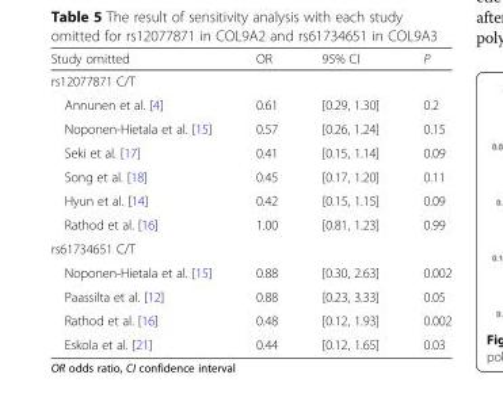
<table><thead><tr><td>Study omitted</td><td>OR</td><td>95% CI</td><td>P</td></tr></thead><tbody><tr><td colspan="4">rs12077871 C/T</td></tr><tr><td>Annunen et al. [4]</td><td>0.61</td><td>[0.29, 1.30]</td><td>0.2</td></tr><tr><td>Noponen-Hietala et al. [15]</td><td>0.57</td><td>[0.26, 1.24]</td><td>0.15</td></tr><tr><td>Seki et al. [17]</td><td>0.41</td><td>[0.15, 1.14]</td><td>0.09</td></tr><tr><td>Song et al. [18]</td><td>0.45</td><td>[0.17, 1.20]</td><td>0.11</td></tr><tr><td>Hyun et al. [14]</td><td>0.42</td><td>[0.15, 1.15]</td><td>0.09</td></tr><tr><td>Rathod et al. [16]</td><td>1.00</td><td>[0.81, 1.23]</td><td>0.99</td></tr><tr><td colspan="4">rs61734651 C/T</td></tr><tr><td>Noponen-Hietala et al. [15]</td><td>0.88</td><td>[0.30, 2.63]</td><td>0.002</td></tr><tr><td>Paassilta et al. [12]</td><td>0.88</td><td>[0.23, 3.33]</td><td>0.05</td></tr><tr><td>Rathod et al. [16]</td><td>0.48</td><td>[0.12, 1.93]</td><td>0.002</td></tr><tr><td>Eskola et al. [21]</td><td>0.44</td><td>[0.12, 1.65]</td><td>0.03</td></tr></tbody></table>